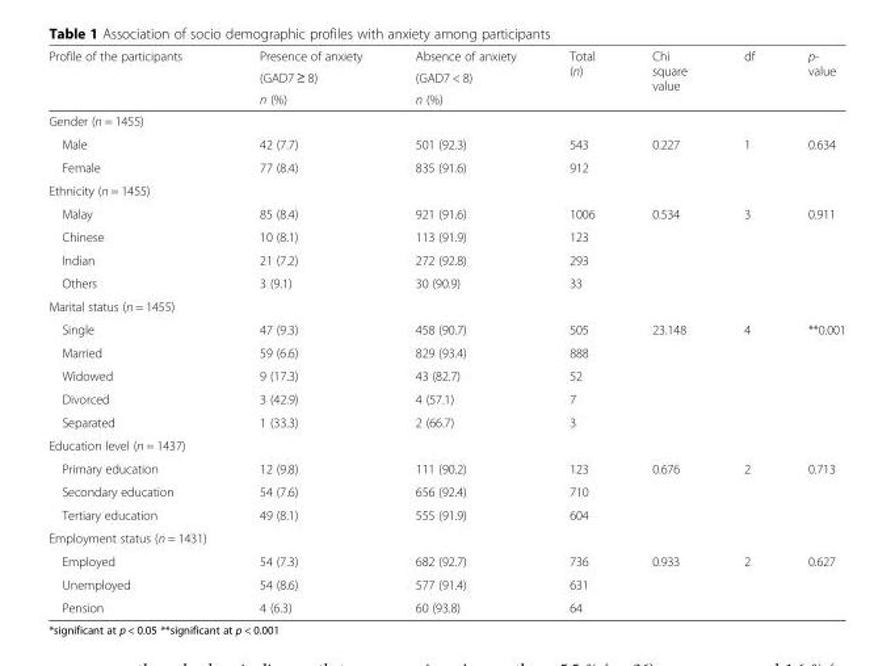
<table><thead><tr><td rowspan="3">Profile of the participants</td><td rowspan="3">Presence of anxiety (GAD7 ≥ 8) n (%)</td><td rowspan="3">Absence of anxiety (GAD7 &lt; 8) n (%)</td><td rowspan="3">Total (n)</td><td rowspan="3">Chi square value</td><td rowspan="3">df</td><td rowspan="3">p- value</td></tr><tr></tr><tr></tr></thead><tbody><tr><td colspan="7">Gender (n = 1455)</td></tr><tr><td>Male</td><td>42 (7.7)</td><td>501 (92.3)</td><td>543</td><td>0.227</td><td>1</td><td>0.634</td></tr><tr><td>Female</td><td>77 (8.4)</td><td>835 (91.6)</td><td>912</td><td></td><td></td><td></td></tr><tr><td colspan="7">Ethnicity (n = 1455)</td></tr><tr><td>Malay</td><td>85 (8.4)</td><td>921 (91.6)</td><td>1006</td><td>0.534</td><td>3</td><td>0.911</td></tr><tr><td>Chinese</td><td>10 (8.1)</td><td>113 (91.9)</td><td>123</td><td></td><td></td><td></td></tr><tr><td>Indian</td><td>21 (7.2)</td><td>272 (92.8)</td><td>293</td><td></td><td></td><td></td></tr><tr><td>Others</td><td>3 (9.1)</td><td>30 (90.9)</td><td>33</td><td></td><td></td><td></td></tr><tr><td colspan="7">Marital status (n = 1455)</td></tr><tr><td>Single</td><td>47 (9.3)</td><td>458 (90.7)</td><td>505</td><td>23.148</td><td>4</td><td>**0.001</td></tr><tr><td>Married</td><td>59 (6.6)</td><td>829 (93.4)</td><td>888</td><td></td><td></td><td></td></tr><tr><td>Widowed</td><td>9 (17.3)</td><td>43 (82.7)</td><td>52</td><td></td><td></td><td></td></tr><tr><td>Divorced</td><td>3 (42.9)</td><td>4 (57.1)</td><td>7</td><td></td><td></td><td></td></tr><tr><td>Separated</td><td>1 (33.3)</td><td>2 (66.7)</td><td>3</td><td></td><td></td><td></td></tr><tr><td colspan="7">Education level (n = 1437)</td></tr><tr><td>Primary education</td><td>12 (9.8)</td><td>111 (90.2)</td><td>123</td><td>0.676</td><td>2</td><td>0.713</td></tr><tr><td>Secondary education</td><td>54 (7.6)</td><td>656 (92.4)</td><td>710</td><td></td><td></td><td></td></tr><tr><td>Tertiary education</td><td>49 (8.1)</td><td>555 (91.9)</td><td>604</td><td></td><td></td><td></td></tr><tr><td colspan="7">Employment status (n = 1431)</td></tr><tr><td>Employed</td><td>54 (7.3)</td><td>682 (92.7)</td><td>736</td><td>0.933</td><td>2</td><td>0.627</td></tr><tr><td>Unemployed</td><td>54 (8.6)</td><td>577 (91.4)</td><td>631</td><td></td><td></td><td></td></tr><tr><td>Pension</td><td>4 (6.3)</td><td>60 (93.8)</td><td>64</td><td></td><td></td><td></td></tr></tbody></table>